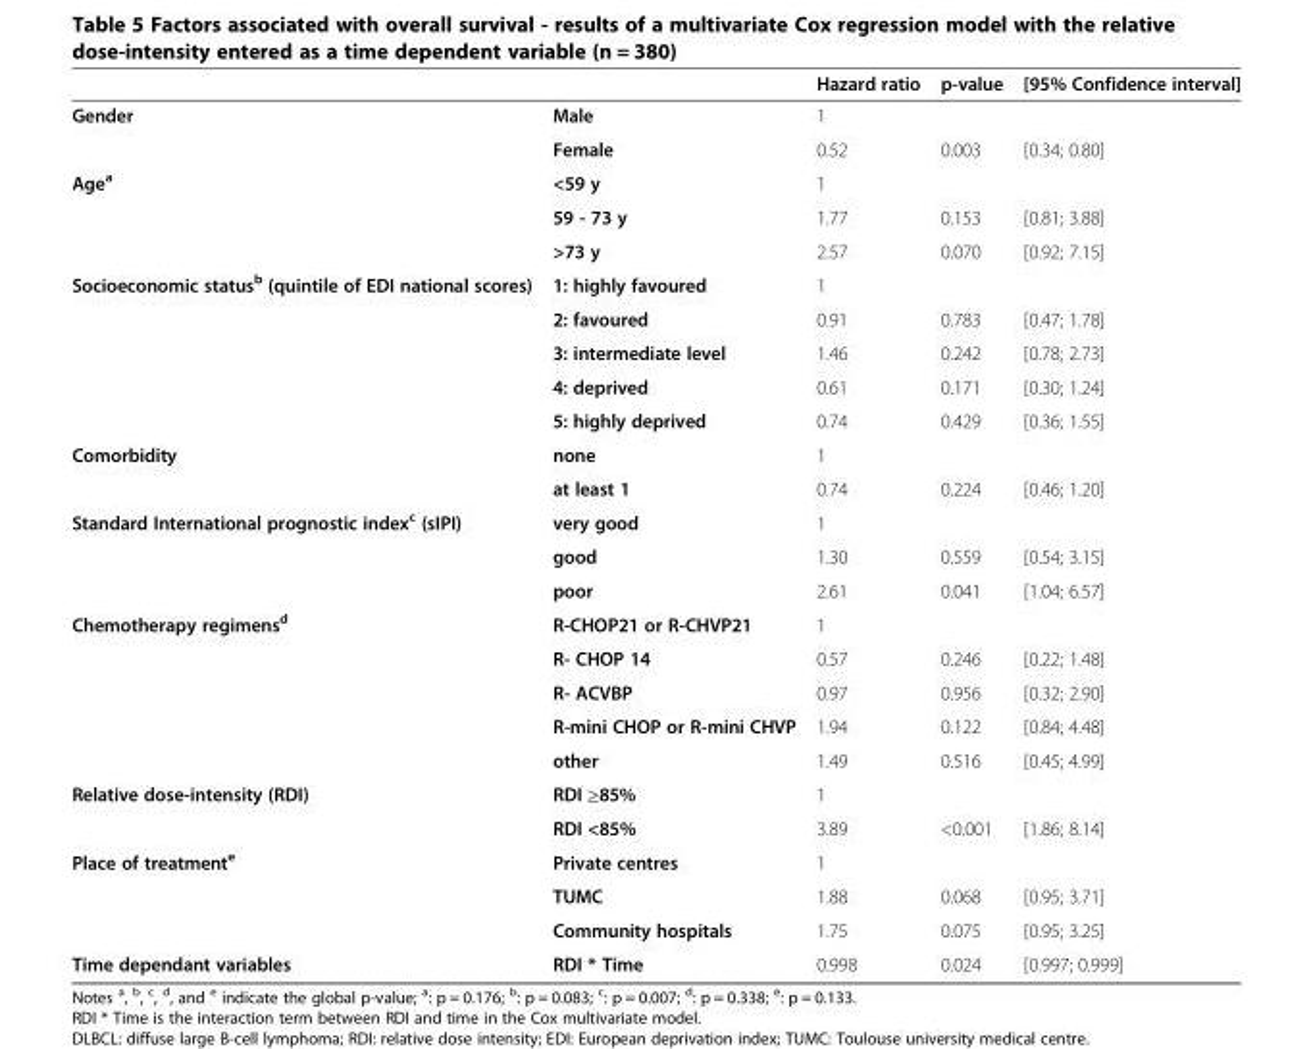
<table><thead><tr><td></td><td></td><td>Hazard ratio</td><td>p-value</td><td>[95% Confidence interval]</td></tr></thead><tbody><tr><td rowspan="2">Gender</td><td>Male</td><td>1</td><td></td><td></td></tr><tr><td>Female</td><td>0.52</td><td>0.003</td><td>[0.34; 0.80]</td></tr><tr><td rowspan="3">Age<sup>a</sup></td><td>&lt;59 y</td><td>1</td><td></td><td></td></tr><tr><td>59 - 73 y</td><td>1.77</td><td>0.153</td><td>[0.81; 3.88]</td></tr><tr><td>&gt;73 y</td><td>2.57</td><td>0.070</td><td>[0.92; 7.15]</td></tr><tr><td rowspan="5">Socioeconomic status<sup>b</sup> (quintile of EDI national scores)</td><td>1: highly favoured</td><td>1</td><td></td><td></td></tr><tr><td>2: favoured</td><td>0.91</td><td>0.783</td><td>[0.47; 1.78]</td></tr><tr><td>3: intermediate level</td><td>1.46</td><td>0.242</td><td>[0.78; 2.73]</td></tr><tr><td>4: deprived</td><td>0.61</td><td>0.171</td><td>[0.30; 1.24]</td></tr><tr><td>5: highly deprived</td><td>0.74</td><td>0.429</td><td>[0.36; 1.55]</td></tr><tr><td rowspan="2">Comorbidity</td><td>none</td><td>1</td><td></td><td></td></tr><tr><td>at least 1</td><td>0.74</td><td>0.224</td><td>[0.46; 1.20]</td></tr><tr><td rowspan="3">Standard International prognostic index<sup>c</sup> (sIPI)</td><td>very good</td><td>1</td><td></td><td></td></tr><tr><td>good</td><td>1.30</td><td>0.559</td><td>[0.54; 3.15]</td></tr><tr><td>poor</td><td>2.61</td><td>0.041</td><td>[1.04; 6.57]</td></tr><tr><td rowspan="5">Chemotherapy regimens<sup>d</sup></td><td>R-CHOP21 or R-CHVP21</td><td>1</td><td></td><td></td></tr><tr><td>R- CHOP 14</td><td>0.57</td><td>0.246</td><td>[0.22; 1.48]</td></tr><tr><td>R- ACVBP</td><td>0.97</td><td>0.956</td><td>[0.32; 2.90]</td></tr><tr><td>R-mini CHOP or R-mini CHVP</td><td>1.94</td><td>0.122</td><td>[0.84; 4.48]</td></tr><tr><td>other</td><td>1.49</td><td>0.516</td><td>[0.45; 4.99]</td></tr><tr><td rowspan="2">Relative dose-intensity (RDI)</td><td>RDI ≥85%</td><td>1</td><td></td><td></td></tr><tr><td>RDI &lt;85%</td><td>3.89</td><td>&lt;0.001</td><td>[1.86; 8.14]</td></tr><tr><td rowspan="3">Place of treatment<sup>e</sup></td><td>Private centres</td><td>1</td><td></td><td></td></tr><tr><td>TUMC</td><td>1.88</td><td>0.068</td><td>[0.95; 3.71]</td></tr><tr><td>Community hospitals</td><td>1.75</td><td>0.075</td><td>[0.95; 3.25]</td></tr><tr><td>Time dependant variables</td><td>RDI * Time</td><td>0.998</td><td>0.024</td><td>[0.997; 0.999]</td></tr></tbody></table>